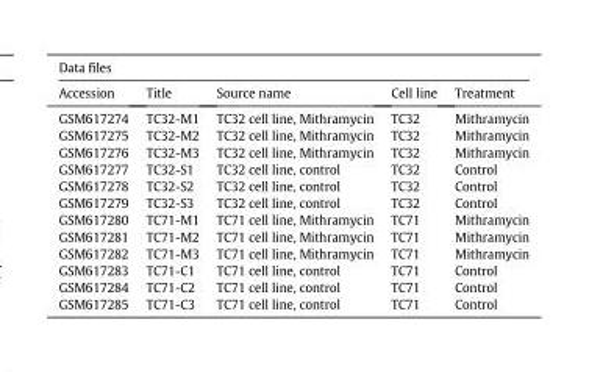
<table><thead><tr><td colspan="5">Data files</td></tr><tr><td>Accession</td><td>Title</td><td>Source name</td><td>Cell line</td><td>Treatment</td></tr></thead><tbody><tr><td>GSM617274</td><td>TC32-M1</td><td>TC32 cell line, Mithramycin</td><td>TC32</td><td>Mithramycin</td></tr><tr><td>GSM617275</td><td>TC32-M2</td><td>TC32 cell line, Mithramycin</td><td>TC32</td><td>Mithramycin</td></tr><tr><td>GSM617276</td><td>TC32-M3</td><td>TC32 cell line, Mithramycin</td><td>TC32</td><td>Mithramycin</td></tr><tr><td>GSM617277</td><td>TC32-S1</td><td>TC32 cell line, control</td><td>TC32</td><td>Control</td></tr><tr><td>GSM617278</td><td>TC32-S2</td><td>TC32 cell line, control</td><td>TC32</td><td>Control</td></tr><tr><td>GSM617279</td><td>TC32-S3</td><td>TC32 cell line, control</td><td>TC32</td><td>Control</td></tr><tr><td>GSM617280</td><td>TC71-M1</td><td>TC71 cell line, Mithramycin</td><td>TC71</td><td>Mithramycin</td></tr><tr><td>GSM617281</td><td>TC71-M2</td><td>TC71 cell line, Mithramycin</td><td>TC71</td><td>Mithramycin</td></tr><tr><td>GSM617282</td><td>TC71-M3</td><td>TC71 cell line, Mithramycin</td><td>TC71</td><td>Mithramycin</td></tr><tr><td>GSM617283</td><td>TC71-C1</td><td>TC71 cell line, control</td><td>TC71</td><td>Control</td></tr><tr><td>GSM617284</td><td>TC71-C2</td><td>TC71 cell line, control</td><td>TC71</td><td>Control</td></tr><tr><td>GSM617285</td><td>TC71-C3</td><td>TC71 cell line, control</td><td>TC71</td><td>Control</td></tr></tbody></table>